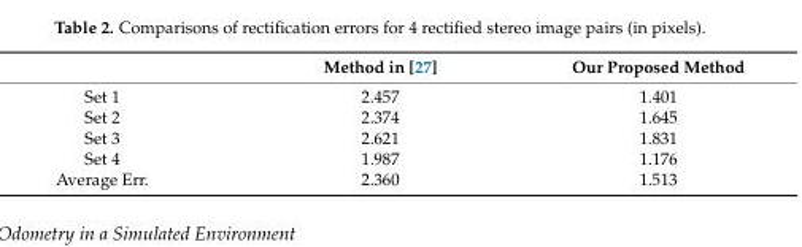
<table><thead><tr><td></td><td>Method in [27]</td><td>Our Proposed Method</td></tr></thead><tbody><tr><td>Set 1</td><td>2.457</td><td>1.401</td></tr><tr><td>Set 2</td><td>2.374</td><td>1.645</td></tr><tr><td>Set 3</td><td>2.621</td><td>1.831</td></tr><tr><td>Set 4</td><td>1.987</td><td>1.176</td></tr><tr><td>Average Err.</td><td>2.360</td><td>1.513</td></tr></tbody></table>